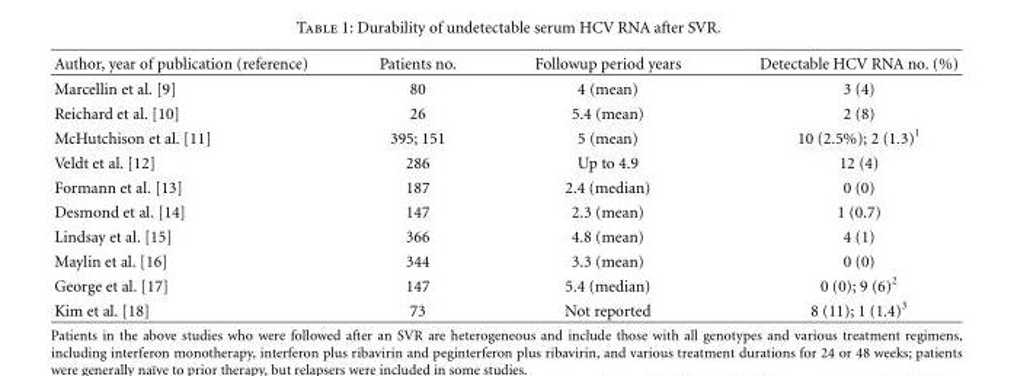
<table><thead><tr><td>Author, year of publication (reference)</td><td>Patients no.</td><td>Followup period years</td><td>Detectable HCV RNA no. (%)</td></tr></thead><tbody><tr><td>Marcellin et al. [9]</td><td>80</td><td>4 (mean)</td><td>3 (4)</td></tr><tr><td>Reichard et al. [10]</td><td>26</td><td>5.4 (mean)</td><td>2 (8)</td></tr><tr><td>McHutchison et al. [11]</td><td>395; 151</td><td>5 (mean)</td><td>10 (2.5%); 2 (1.3)<sup>1</sup></td></tr><tr><td>Veldt et al. [12]</td><td>286</td><td>Up to 4.9</td><td>12 (4)</td></tr><tr><td>Formann et al. [13]</td><td>187</td><td>2.4 (median)</td><td>0 (0)</td></tr><tr><td>Desmond et al. [14]</td><td>147</td><td>2.3 (mean)</td><td>1 (0.7)</td></tr><tr><td>Lindsay et al. [15]</td><td>366</td><td>4.8 (mean)</td><td>4 (1)</td></tr><tr><td>Maylin et al. [16]</td><td>344</td><td>3.3 (mean)</td><td>0 (0)</td></tr><tr><td>George et al. [17]</td><td>147</td><td>5.4 (median)</td><td>0 (0); 9 (6)<sup>2</sup></td></tr><tr><td>Kim et al. [18]</td><td>73</td><td>Not reported</td><td>8 (11); 1 (1.4)<sup>3</sup></td></tr></tbody></table>